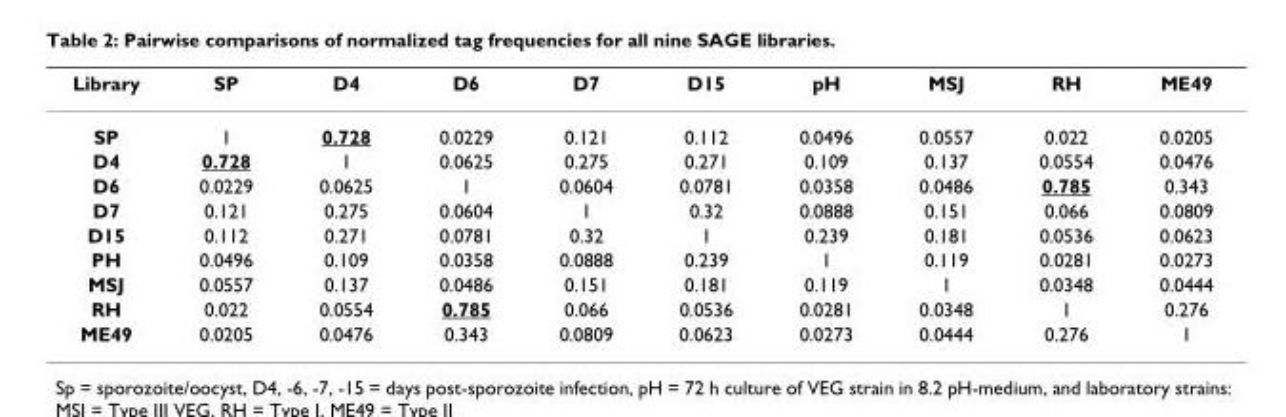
<table><thead><tr><td>Library</td><td>SP</td><td>D4</td><td>D6</td><td>D7</td><td>D15</td><td>pH</td><td>MSJ</td><td>RH</td><td>ME49</td></tr></thead><tbody><tr><td>SP</td><td>1</td><td>0.728</td><td>0.0229</td><td>0.121</td><td>0.112</td><td>0.0496</td><td>0.0557</td><td>0.022</td><td>0.0205</td></tr><tr><td>D4</td><td>0.728</td><td>1</td><td>0.0625</td><td>0.275</td><td>0.271</td><td>0.109</td><td>0.137</td><td>0.0554</td><td>0.0476</td></tr><tr><td>D6</td><td>0.0229</td><td>0.0625</td><td>1</td><td>0.0604</td><td>0.0781</td><td>0.0358</td><td>0.0486</td><td>0.785</td><td>0.343</td></tr><tr><td>D7</td><td>0.121</td><td>0.275</td><td>0.0604</td><td>1</td><td>0.32</td><td>0.0888</td><td>0.151</td><td>0.066</td><td>0.0809</td></tr><tr><td>D15</td><td>0.112</td><td>0.271</td><td>0.0781</td><td>0.32</td><td>1</td><td>0.239</td><td>0.181</td><td>0.0536</td><td>0.0623</td></tr><tr><td>PH</td><td>0.0496</td><td>0.109</td><td>0.0358</td><td>0.0888</td><td>0.239</td><td>1</td><td>0.119</td><td>0.0281</td><td>0.0273</td></tr><tr><td>MSJ</td><td>0.0557</td><td>0.137</td><td>0.0486</td><td>0.151</td><td>0.181</td><td>0.119</td><td>1</td><td>0.0348</td><td>0.0444</td></tr><tr><td>RH</td><td>0.022</td><td>0.0554</td><td>0.785</td><td>0.066</td><td>0.0536</td><td>0.0281</td><td>0.0348</td><td>1</td><td>0.276</td></tr><tr><td>ME49</td><td>0.0205</td><td>0.0476</td><td>0.343</td><td>0.0809</td><td>0.0623</td><td>0.0273</td><td>0.0444</td><td>0.276</td><td>1</td></tr></tbody></table>